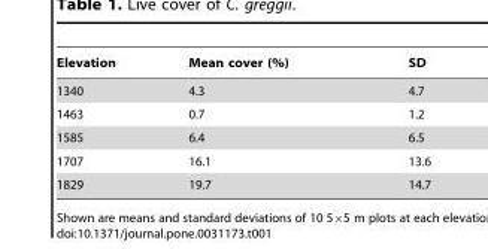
<table><thead><tr><td>Elevation</td><td>Mean cover (%)</td><td>SD</td></tr></thead><tbody><tr><td>1340</td><td>4.3</td><td>4.7</td></tr><tr><td>1463</td><td>0.7</td><td>1.2</td></tr><tr><td>1585</td><td>6.4</td><td>6.5</td></tr><tr><td>1707</td><td>16.1</td><td>13.6</td></tr><tr><td>1829</td><td>19.7</td><td>14.7</td></tr></tbody></table>